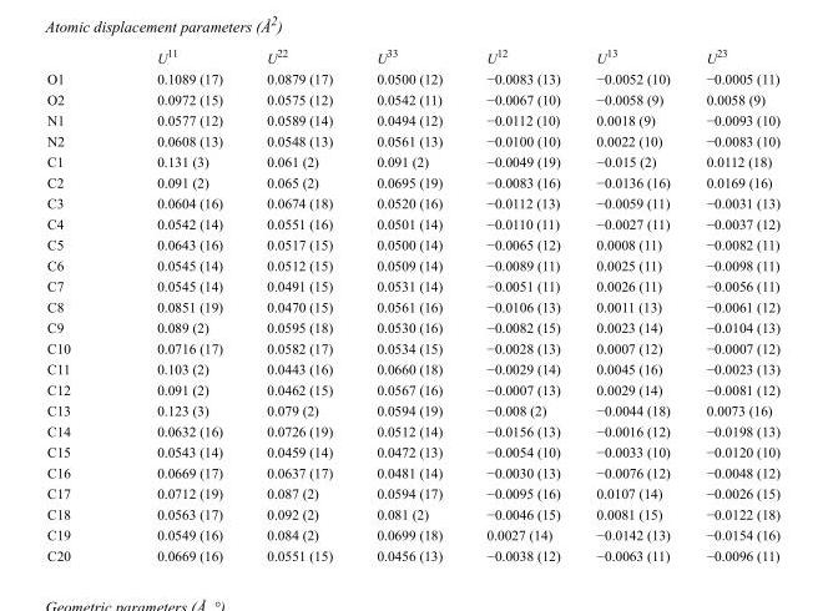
<table><thead><tr><td></td><td>U<sup>11</sup></td><td>U<sup>22</sup></td><td>U<sup>33</sup></td><td>U<sup>12</sup></td><td>U<sup>13</sup></td><td>U<sup>23</sup></td></tr></thead><tbody><tr><td>O1</td><td>0.1089 (17)</td><td>0.0879 (17)</td><td>0.0500 (12)</td><td>−0.0083 (13)</td><td>−0.0052 (10)</td><td>−0.0005 (11)</td></tr><tr><td>O2</td><td>0.0972 (15)</td><td>0.0575 (12)</td><td>0.0542 (11)</td><td>−0.0067 (10)</td><td>−0.0058 (9)</td><td>0.0058 (9)</td></tr><tr><td>N1</td><td>0.0577 (12)</td><td>0.0589 (14)</td><td>0.0494 (12)</td><td>−0.0112 (10)</td><td>0.0018 (9)</td><td>−0.0093 (10)</td></tr><tr><td>N2</td><td>0.0608 (13)</td><td>0.0548 (13)</td><td>0.0561 (13)</td><td>−0.0100 (10)</td><td>0.0022 (10)</td><td>−0.0083 (10)</td></tr><tr><td>C1</td><td>0.131 (3)</td><td>0.061 (2)</td><td>0.091 (2)</td><td>−0.0049 (19)</td><td>−0.015 (2)</td><td>0.0112 (18)</td></tr><tr><td>C2</td><td>0.091 (2)</td><td>0.065 (2)</td><td>0.0695 (19)</td><td>−0.0083 (16)</td><td>−0.0136 (16)</td><td>0.0169 (16)</td></tr><tr><td>C3</td><td>0.0604 (16)</td><td>0.0674 (18)</td><td>0.0520 (16)</td><td>−0.0112 (13)</td><td>−0.0059 (11)</td><td>−0.0031 (13)</td></tr><tr><td>C4</td><td>0.0542 (14)</td><td>0.0551 (16)</td><td>0.0501 (14)</td><td>−0.0110 (11)</td><td>−0.0027 (11)</td><td>−0.0037 (12)</td></tr><tr><td>C5</td><td>0.0643 (16)</td><td>0.0517 (15)</td><td>0.0500 (14)</td><td>−0.0065 (12)</td><td>0.0008 (11)</td><td>−0.0082 (11)</td></tr><tr><td>C6</td><td>0.0545 (14)</td><td>0.0512 (15)</td><td>0.0509 (14)</td><td>−0.0089 (11)</td><td>0.0025 (11)</td><td>−0.0098 (11)</td></tr><tr><td>C7</td><td>0.0545 (14)</td><td>0.0491 (15)</td><td>0.0531 (14)</td><td>−0.0051 (11)</td><td>0.0026 (11)</td><td>−0.0056 (11)</td></tr><tr><td>C8</td><td>0.0851 (19)</td><td>0.0470 (15)</td><td>0.0561 (16)</td><td>−0.0106 (13)</td><td>0.0011 (13)</td><td>−0.0061 (12)</td></tr><tr><td>C9</td><td>0.089 (2)</td><td>0.0595 (18)</td><td>0.0530 (16)</td><td>−0.0082 (15)</td><td>0.0023 (14)</td><td>−0.0104 (13)</td></tr><tr><td>C10</td><td>0.0716 (17)</td><td>0.0582 (17)</td><td>0.0534 (15)</td><td>−0.0028 (13)</td><td>0.0007 (12)</td><td>−0.0007 (12)</td></tr><tr><td>C11</td><td>0.103 (2)</td><td>0.0443 (16)</td><td>0.0660 (18)</td><td>−0.0029 (14)</td><td>0.0045 (16)</td><td>−0.0023 (13)</td></tr><tr><td>C12</td><td>0.091 (2)</td><td>0.0462 (15)</td><td>0.0567 (16)</td><td>−0.0007 (13)</td><td>0.0029 (14)</td><td>−0.0081 (12)</td></tr><tr><td>C13</td><td>0.123 (3)</td><td>0.079 (2)</td><td>0.0594 (19)</td><td>−0.008 (2)</td><td>−0.0044 (18)</td><td>0.0073 (16)</td></tr><tr><td>C14</td><td>0.0632 (16)</td><td>0.0726 (19)</td><td>0.0512 (14)</td><td>−0.0156 (13)</td><td>−0.0016 (12)</td><td>−0.0198 (13)</td></tr><tr><td>C15</td><td>0.0543 (14)</td><td>0.0459 (14)</td><td>0.0472 (13)</td><td>−0.0054 (10)</td><td>−0.0033 (10)</td><td>−0.0120 (10)</td></tr><tr><td>C16</td><td>0.0669 (17)</td><td>0.0637 (17)</td><td>0.0481 (14)</td><td>−0.0030 (13)</td><td>−0.0076 (12)</td><td>−0.0048 (12)</td></tr><tr><td>C17</td><td>0.0712 (19)</td><td>0.087 (2)</td><td>0.0594 (17)</td><td>−0.0095 (16)</td><td>0.0107 (14)</td><td>−0.0026 (15)</td></tr><tr><td>C18</td><td>0.0563 (17)</td><td>0.092 (2)</td><td>0.081 (2)</td><td>−0.0046 (15)</td><td>0.0081 (15)</td><td>−0.0122 (18)</td></tr><tr><td>C19</td><td>0.0549 (16)</td><td>0.084 (2)</td><td>0.0699 (18)</td><td>0.0027 (14)</td><td>−0.0142 (13)</td><td>−0.0154 (16)</td></tr><tr><td>C20</td><td>0.0669 (16)</td><td>0.0551 (15)</td><td>0.0456 (13)</td><td>−0.0038 (12)</td><td>−0.0063 (11)</td><td>−0.0096 (11)</td></tr></tbody></table>